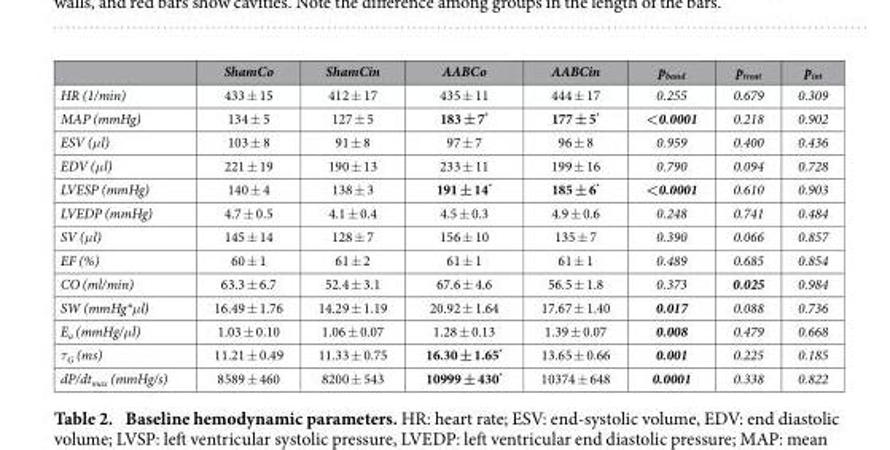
<table><thead><tr><td></td><td>ShamCo</td><td>ShamCin</td><td>AABCo</td><td>AABCin</td><td>pband</td><td>ptreat</td><td>pint</td></tr></thead><tbody><tr><td>HR (1/min)</td><td>433 ± 15</td><td>412 ± 17</td><td>435 ± 11</td><td>444 ± 17</td><td>0.255</td><td>0.679</td><td>0.309</td></tr><tr><td>MAP (mmHg)</td><td>134 ± 5</td><td>127 ± 5</td><td>183 ± 7*</td><td>177 ± 5*</td><td>&lt;0.0001</td><td>0.218</td><td>0.902</td></tr><tr><td>ESV (μ l)</td><td>103 ± 8</td><td>91 ± 8</td><td>97 ± 7</td><td>96 ± 8</td><td>0.959</td><td>0.400</td><td>0.436</td></tr><tr><td>EDV (μ l)</td><td>221 ± 19</td><td>190 ± 13</td><td>233 ± 11</td><td>199 ± 16</td><td>0.790</td><td>0.094</td><td>0.728</td></tr><tr><td>LVESP (mmHg)</td><td>140 ± 4</td><td>138 ± 3</td><td>191 ± 14*</td><td>185 ± 6*</td><td>&lt;0.0001</td><td>0.610</td><td>0.903</td></tr><tr><td>LVEDP (mmHg)</td><td>4.7 ± 0.5</td><td>4.1 ± 0.4</td><td>4.5 ± 0.3</td><td>4.9 ± 0.6</td><td>0.248</td><td>0.741</td><td>0.484</td></tr><tr><td>SV (μ l)</td><td>145 ± 14</td><td>128 ± 7</td><td>156 ± 10</td><td>135 ± 7</td><td>0.390</td><td>0.066</td><td>0.857</td></tr><tr><td>EF (%)</td><td>60 ± 1</td><td>61 ± 2</td><td>61 ± 1</td><td>61 ± 1</td><td>0.489</td><td>0.685</td><td>0.854</td></tr><tr><td>CO (ml/min)</td><td>63.3 ± 6.7</td><td>52.4 ± 3.1</td><td>67.6 ± 4.6</td><td>56.5 ± 1.8</td><td>0.373</td><td>0.025</td><td>0.984</td></tr><tr><td>SW (mmHg*μ l)</td><td>16.49 ± 1.76</td><td>14.29 ± 1.19</td><td>20.92 ± 1.64</td><td>17.67 ± 1.40</td><td>0.017</td><td>0.088</td><td>0.736</td></tr><tr><td>E<sub>a</sub> (mmHg/μ l)</td><td>1.03 ± 0.10</td><td>1.06 ± 0.07</td><td>1.28 ± 0.13</td><td>1.39 ± 0.07</td><td>0.008</td><td>0.479</td><td>0.668</td></tr><tr><td>τ <sub>G</sub> (ms)</td><td>11.21 ± 0.49</td><td>11.33 ± 0.75</td><td>16.30 ± 1.65*</td><td>13.65 ± 0.66</td><td>0.001</td><td>0.225</td><td>0.185</td></tr><tr><td>dP/dt<sub>max</sub> (mmHg/s)</td><td>8589 ± 460</td><td>8200 ± 543</td><td>10999 ± 430*</td><td>10374 ± 648</td><td>0.0001</td><td>0.338</td><td>0.822</td></tr></tbody></table>